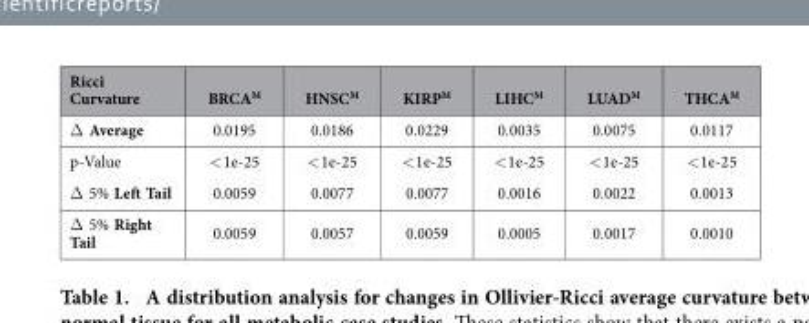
<table><thead><tr><td>Ricci Curvature</td><td>BRCA<sup>M</sup></td><td>HNSC<sup>M</sup></td><td>KIRP<sup>M</sup></td><td>LIHC<sup>M</sup></td><td>LUAD<sup>M</sup></td><td>THCA<sup>M</sup></td></tr></thead><tbody><tr><td>Δ Average</td><td>0.0195</td><td>0.0186</td><td>0.0229</td><td>0.0035</td><td>0.0075</td><td>0.0117</td></tr><tr><td>p-Value</td><td>&lt; 1e-25</td><td>&lt; 1e-25</td><td>&lt; 1e-25</td><td>&lt; 1e-25</td><td>&lt; 1e-25</td><td>&lt; 1e-25</td></tr><tr><td>Δ 5% Left Tail</td><td>0.0059</td><td>0.0077</td><td>0.0077</td><td>0.0016</td><td>0.0022</td><td>0.0013</td></tr><tr><td>Δ 5% Right Tail</td><td>0.0059</td><td>0.0057</td><td>0.0059</td><td>0.0005</td><td>0.0017</td><td>0.0010</td></tr></tbody></table>